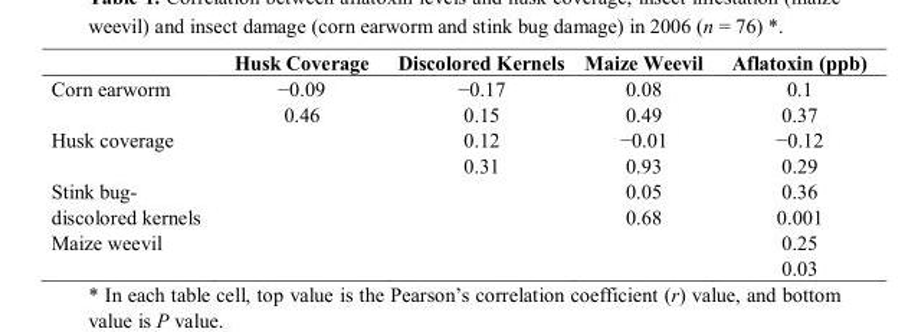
<table><thead><tr><td></td><td>Husk Coverage</td><td>Discolored Kernels</td><td>Maize Weevil</td><td>Aflatoxin (ppb)</td></tr></thead><tbody><tr><td rowspan="2">Corn earworm</td><td>−0.09</td><td>−0.17</td><td>0.08</td><td>0.1</td></tr><tr><td>0.46</td><td>0.15</td><td>0.49</td><td>0.37</td></tr><tr><td rowspan="2">Husk coverage</td><td></td><td>0.12</td><td>−0.01</td><td>−0.12</td></tr><tr><td></td><td>0.31</td><td>0.93</td><td>0.29</td></tr><tr><td>Stink bug-</td><td></td><td></td><td>0.05</td><td>0.36</td></tr><tr><td>discolored kernels</td><td></td><td></td><td>0.68</td><td>0.001</td></tr><tr><td rowspan="2">Maize weevil</td><td></td><td></td><td></td><td>0.25</td></tr><tr><td></td><td></td><td></td><td>0.03</td></tr></tbody></table>